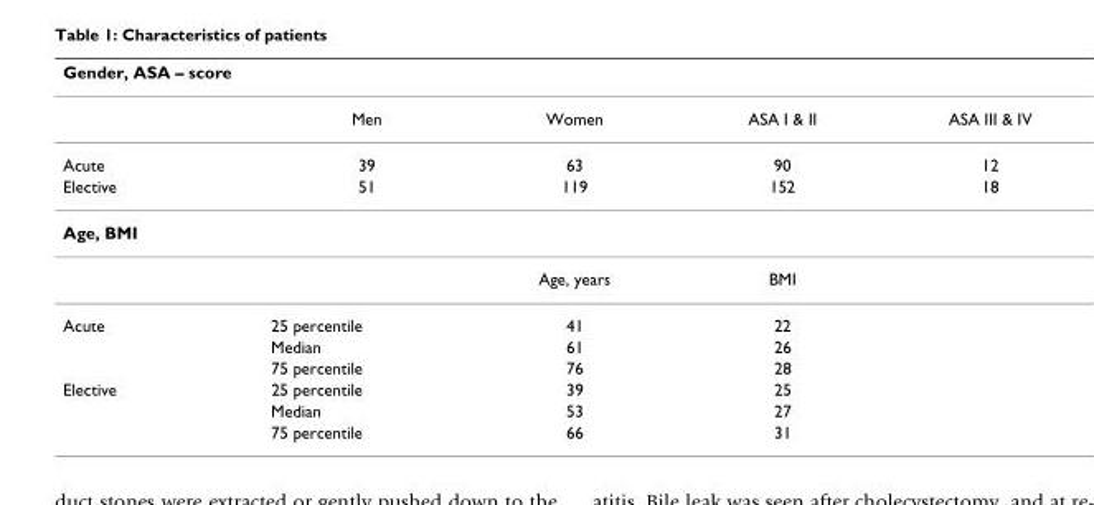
<table><thead><tr><td colspan="5">Gender, ASA – score</td></tr><tr><td></td><td>Men</td><td>Women</td><td>ASA I &amp; II</td><td>ASA III &amp; IV</td></tr></thead><tbody><tr><td>Acute</td><td>39</td><td>63</td><td>90</td><td>12</td></tr><tr><td>Elective</td><td>51</td><td>119</td><td>152</td><td>18</td></tr><tr><td colspan="5">Age, BMI</td></tr><tr><td></td><td></td><td>Age, years</td><td>BMI</td><td></td></tr><tr><td rowspan="3">Acute</td><td>25 percentile</td><td>41</td><td>22</td><td></td></tr><tr><td>Median</td><td>61</td><td>26</td><td></td></tr><tr><td>75 percentile</td><td>76</td><td>28</td><td></td></tr><tr><td rowspan="3">Elective</td><td>25 percentile</td><td>39</td><td>25</td><td></td></tr><tr><td>Median</td><td>53</td><td>27</td><td></td></tr><tr><td>75 percentile</td><td>66</td><td>31</td><td></td></tr></tbody></table>